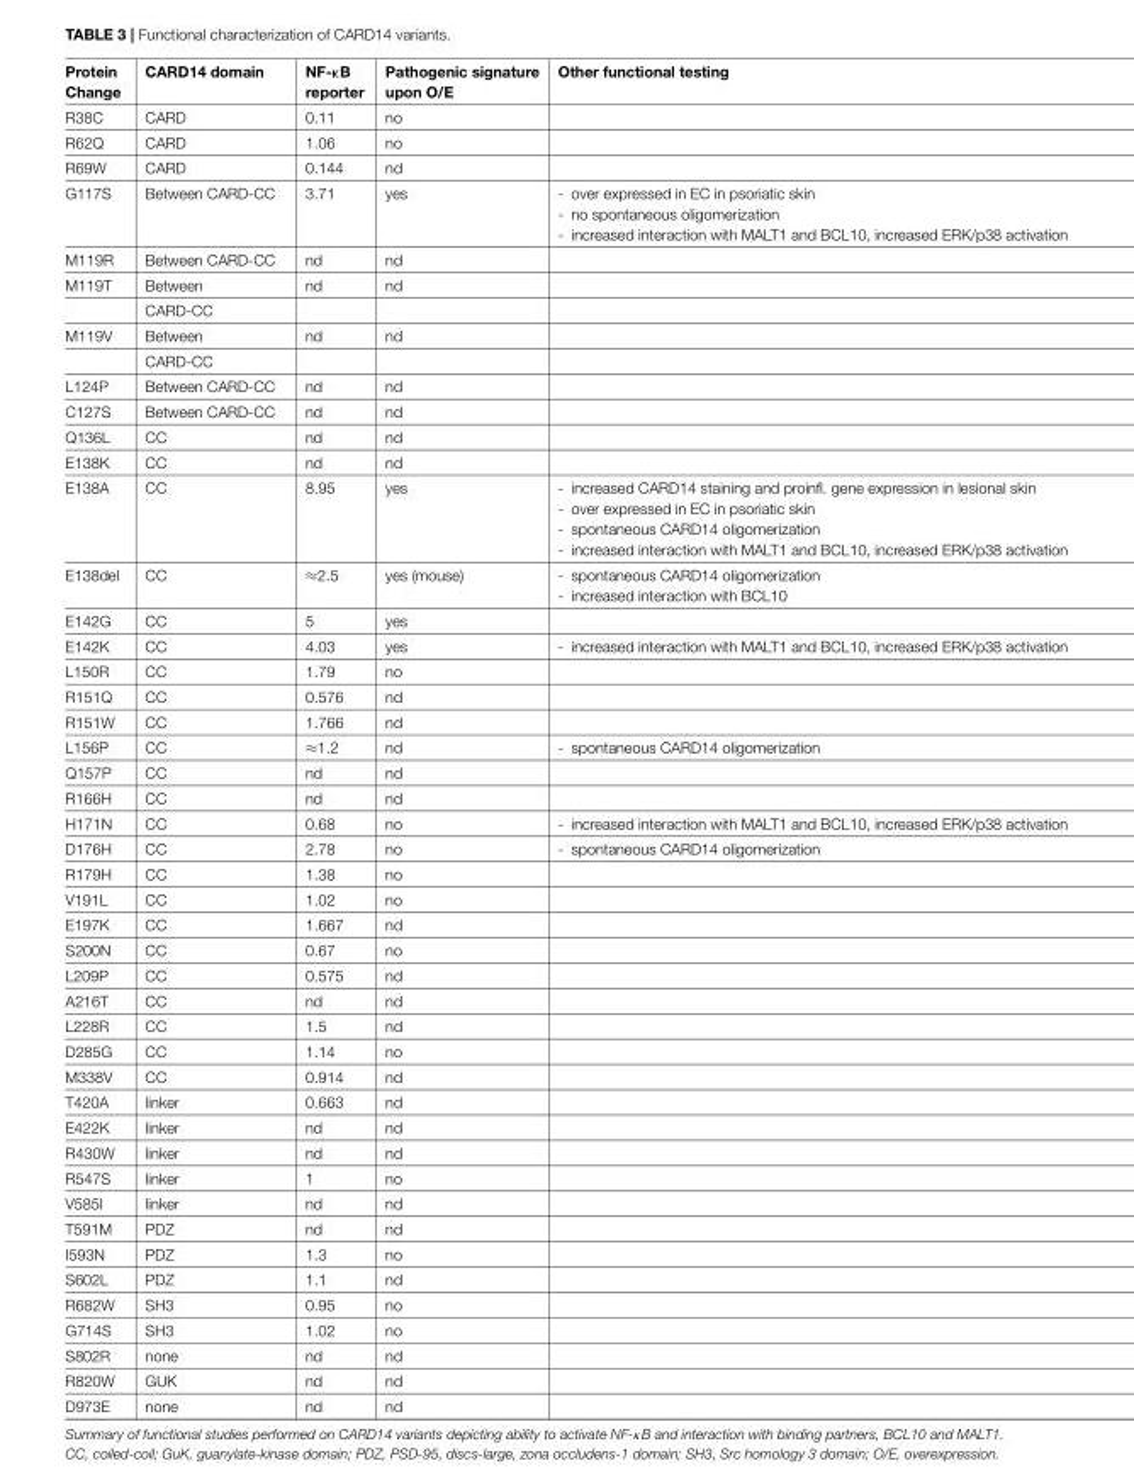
<table><thead><tr><td>Protein Change</td><td>CARD14 domain</td><td>NF-κB reporter</td><td>Pathogenic signature upon O/E</td><td>Other functional testing</td></tr></thead><tbody><tr><td>R38C</td><td>CARD</td><td>0.11</td><td>no</td><td></td></tr><tr><td>R62Q</td><td>CARD</td><td>1.06</td><td>no</td><td></td></tr><tr><td>R69W</td><td>CARD</td><td>0.144</td><td>nd</td><td></td></tr><tr><td>G117S</td><td>Between CARD-CC</td><td>3.71</td><td>yes</td><td>- over expressed in EC in psoriatic skin - no spontaneous oligomerization - increased interaction with MALT1 and BCL10, increased ERK/p38 activation</td></tr><tr><td>M119R</td><td>Between CARD-CC</td><td>nd</td><td>nd</td><td></td></tr><tr><td rowspan="2">M119T</td><td>Between</td><td>nd</td><td>nd</td><td></td></tr><tr><td>CARD-CC</td><td></td><td></td><td></td></tr><tr><td rowspan="2">M119V</td><td>Between</td><td>nd</td><td>nd</td><td></td></tr><tr><td>CARD-CC</td><td></td><td></td><td></td></tr><tr><td>L124P</td><td>Between CARD-CC</td><td>nd</td><td>nd</td><td></td></tr><tr><td>C127S</td><td>Between CARD-CC</td><td>nd</td><td>nd</td><td></td></tr><tr><td>Q136L</td><td>CC</td><td>nd</td><td>nd</td><td></td></tr><tr><td>E138K</td><td>CC</td><td>nd</td><td>nd</td><td></td></tr><tr><td>E138A</td><td>CC</td><td>8.95</td><td>yes</td><td>- increased CARD14 staining and proinfl. gene expression in lesional skin - over expressed in EC in psoriatic skin - spontaneous CARD14 oligomerization - increased interaction with MALT1 and BCL10, increased ERK/p38 activation</td></tr><tr><td>E138del</td><td>CC</td><td>≈2.5</td><td>yes (mouse)</td><td>- spontaneous CARD14 oligomerization - increased interaction with BCL10</td></tr><tr><td>E142G</td><td>CC</td><td>5</td><td>yes</td><td></td></tr><tr><td>E142K</td><td>CC</td><td>4.03</td><td>yes</td><td>- increased interaction with MALT1 and BCL10, increased ERK/p38 activation</td></tr><tr><td>L150R</td><td>CC</td><td>1.79</td><td>no</td><td></td></tr><tr><td>R151Q</td><td>CC</td><td>0.576</td><td>nd</td><td></td></tr><tr><td>R151W</td><td>CC</td><td>1.766</td><td>nd</td><td></td></tr><tr><td>L156P</td><td>CC</td><td>≈1.2</td><td>nd</td><td>- spontaneous CARD14 oligomerization</td></tr><tr><td>Q157P</td><td>CC</td><td>nd</td><td>nd</td><td></td></tr><tr><td>R166H</td><td>CC</td><td>nd</td><td>nd</td><td></td></tr><tr><td>H171N</td><td>CC</td><td>0.68</td><td>no</td><td>- increased interaction with MALT1 and BCL10, increased ERK/p38 activation</td></tr><tr><td>D176H</td><td>CC</td><td>2.78</td><td>no</td><td>- spontaneous CARD14 oligomerization</td></tr><tr><td>R179H</td><td>CC</td><td>1.38</td><td>no</td><td></td></tr><tr><td>V191L</td><td>CC</td><td>1.02</td><td>no</td><td></td></tr><tr><td>E197K</td><td>CC</td><td>1.667</td><td>nd</td><td></td></tr><tr><td>S200N</td><td>CC</td><td>0.67</td><td>no</td><td></td></tr><tr><td>L209P</td><td>CC</td><td>0.575</td><td>nd</td><td></td></tr><tr><td>A216T</td><td>CC</td><td>nd</td><td>nd</td><td></td></tr><tr><td>L228R</td><td>CC</td><td>1.5</td><td>nd</td><td></td></tr><tr><td>D285G</td><td>CC</td><td>1.14</td><td>no</td><td></td></tr><tr><td>M338V</td><td>CC</td><td>0.914</td><td>nd</td><td></td></tr><tr><td>T420A</td><td>linker</td><td>0.663</td><td>nd</td><td></td></tr><tr><td>E422K</td><td>linker</td><td>nd</td><td>nd</td><td></td></tr><tr><td>R430W</td><td>linker</td><td>nd</td><td>nd</td><td></td></tr><tr><td>R547S</td><td>linker</td><td>1</td><td>no</td><td></td></tr><tr><td>V585I</td><td>linker</td><td>nd</td><td>nd</td><td></td></tr><tr><td>T591M</td><td>PDZ</td><td>nd</td><td>nd</td><td></td></tr><tr><td>I593N</td><td>PDZ</td><td>1.3</td><td>no</td><td></td></tr><tr><td>S602L</td><td>PDZ</td><td>1.1</td><td>nd</td><td></td></tr><tr><td>R682W</td><td>SH3</td><td>0.95</td><td>no</td><td></td></tr><tr><td>G714S</td><td>SH3</td><td>1.02</td><td>no</td><td></td></tr><tr><td>S802R</td><td>none</td><td>nd</td><td>nd</td><td></td></tr><tr><td>R820W</td><td>GUK</td><td>nd</td><td>nd</td><td></td></tr><tr><td>D973E</td><td>none</td><td>nd</td><td>nd</td><td></td></tr></tbody></table>